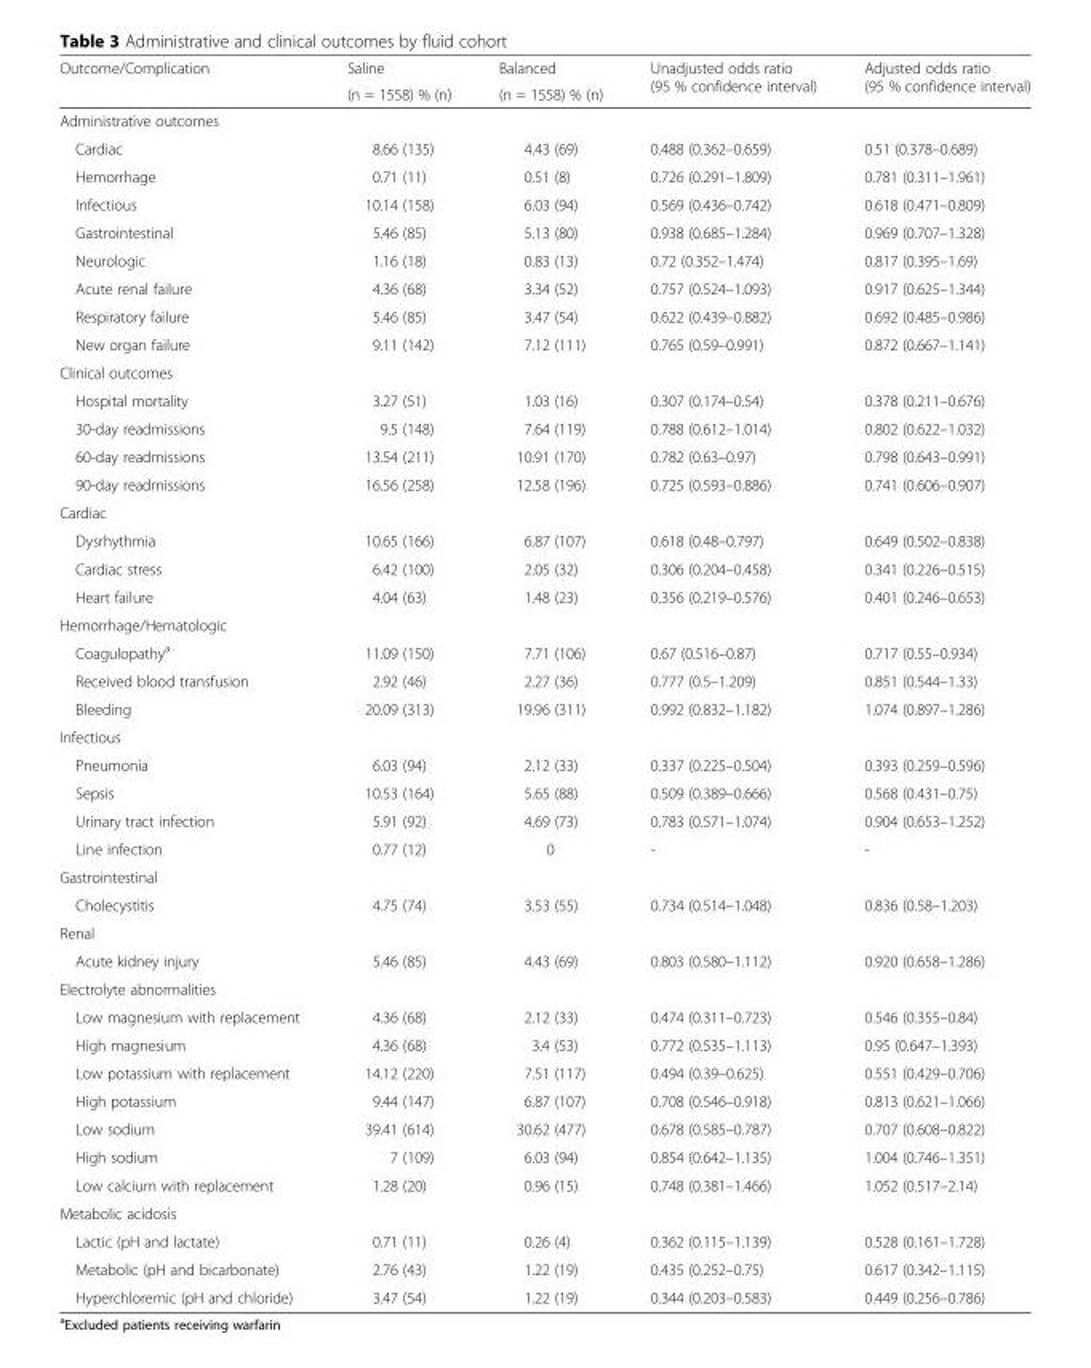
<table><thead><tr><td rowspan="2">Outcome/Complication</td><td rowspan="2">Saline (n = 1558) % (n)</td><td rowspan="2">Balanced (n = 1558) % (n)</td><td rowspan="2">Unadjusted odds ratio (95 % confidence interval)</td><td rowspan="2">Adjusted odds ratio (95 % confidence interval)</td></tr><tr></tr></thead><tbody><tr><td colspan="5">Administrative outcomes</td></tr><tr><td>Cardiac</td><td>8.66 (135)</td><td>4.43 (69)</td><td>0.488 (0.362–0.659)</td><td>0.51 (0.378–0.689)</td></tr><tr><td>Hemorrhage</td><td>0.71 (11)</td><td>0.51 (8)</td><td>0.726 (0.291–1.809)</td><td>0.781 (0.311–1.961)</td></tr><tr><td>Infectious</td><td>10.14 (158)</td><td>6.03 (94)</td><td>0.569 (0.436–0.742)</td><td>0.618 (0.471–0.809)</td></tr><tr><td>Gastrointestinal</td><td>5.46 (85)</td><td>5.13 (80)</td><td>0.938 (0.685–1.284)</td><td>0.969 (0.707–1.328)</td></tr><tr><td>Neurologic</td><td>1.16 (18)</td><td>0.83 (13)</td><td>0.72 (0.352–1.474)</td><td>0.817 (0.395–1.69)</td></tr><tr><td>Acute renal failure</td><td>4.36 (68)</td><td>3.34 (52)</td><td>0.757 (0.524–1.093)</td><td>0.917 (0.625–1.344)</td></tr><tr><td>Respiratory failure</td><td>5.46 (85)</td><td>3.47 (54)</td><td>0.622 (0.439–0.882)</td><td>0.692 (0.485–0.986)</td></tr><tr><td>New organ failure</td><td>9.11 (142)</td><td>7.12 (111)</td><td>0.765 (0.59–0.991)</td><td>0.872 (0.667–1.141)</td></tr><tr><td colspan="5">Clinical outcomes</td></tr><tr><td>Hospital mortality</td><td>3.27 (51)</td><td>1.03 (16)</td><td>0.307 (0.174–0.54)</td><td>0.378 (0.211–0.676)</td></tr><tr><td>30-day readmissions</td><td>9.5 (148)</td><td>7.64 (119)</td><td>0.788 (0.612–1.014)</td><td>0.802 (0.622–1.032)</td></tr><tr><td>60-day readmissions</td><td>13.54 (211)</td><td>10.91 (170)</td><td>0.782 (0.63–0.97)</td><td>0.798 (0.643–0.991)</td></tr><tr><td>90-day readmissions</td><td>16.56 (258)</td><td>12.58 (196)</td><td>0.725 (0.593–0.886)</td><td>0.741 (0.606–0.907)</td></tr><tr><td colspan="5">Cardiac</td></tr><tr><td>Dysrhythmia</td><td>10.65 (166)</td><td>6.87 (107)</td><td>0.618 (0.48–0.797)</td><td>0.649 (0.502–0.838)</td></tr><tr><td>Cardiac stress</td><td>6.42 (100)</td><td>2.05 (32)</td><td>0.306 (0.204–0.458)</td><td>0.341 (0.226–0.515)</td></tr><tr><td>Heart failure</td><td>4.04 (63)</td><td>1.48 (23)</td><td>0.356 (0.219–0.576)</td><td>0.401 (0.246–0.653)</td></tr><tr><td colspan="5">Hemorrhage/Hematologic</td></tr><tr><td>Coagulopathy<sup>a</sup></td><td>11.09 (150)</td><td>7.71 (106)</td><td>0.67 (0.516–0.87)</td><td>0.717 (0.55–0.934)</td></tr><tr><td>Received blood transfusion</td><td>2.92 (46)</td><td>2.27 (36)</td><td>0.777 (0.5–1.209)</td><td>0.851 (0.544–1.33)</td></tr><tr><td>Bleeding</td><td>20.09 (313)</td><td>19.96 (311)</td><td>0.992 (0.832–1.182)</td><td>1.074 (0.897–1.286)</td></tr><tr><td colspan="5">Infectious</td></tr><tr><td>Pneumonia</td><td>6.03 (94)</td><td>2.12 (33)</td><td>0.337 (0.225–0.504)</td><td>0.393 (0.259–0.596)</td></tr><tr><td>Sepsis</td><td>10.53 (164)</td><td>5.65 (88)</td><td>0.509 (0.389–0.666)</td><td>0.568 (0.431–0.75)</td></tr><tr><td>Urinary tract infection</td><td>5.91 (92)</td><td>4.69 (73)</td><td>0.783 (0.571–1.074)</td><td>0.904 (0.653–1.252)</td></tr><tr><td>Line infection</td><td>0.77 (12)</td><td>0</td><td>-</td><td>-</td></tr><tr><td colspan="5">Gastrointestinal</td></tr><tr><td>Cholecystitis</td><td>4.75 (74)</td><td>3.53 (55)</td><td>0.734 (0.514–1.048)</td><td>0.836 (0.58–1.203)</td></tr><tr><td colspan="5">Renal</td></tr><tr><td>Acute kidney injury</td><td>5.46 (85)</td><td>4.43 (69)</td><td>0.803 (0.580–1.112)</td><td>0.920 (0.658–1.286)</td></tr><tr><td colspan="5">Electrolyte abnormalities</td></tr><tr><td>Low magnesium with replacement</td><td>4.36 (68)</td><td>2.12 (33)</td><td>0.474 (0.311–0.723)</td><td>0.546 (0.355–0.84)</td></tr><tr><td>High magnesium</td><td>4.36 (68)</td><td>3.4 (53)</td><td>0.772 (0.535–1.113)</td><td>0.95 (0.647–1.393)</td></tr><tr><td>Low potassium with replacement</td><td>14.12 (220)</td><td>7.51 (117)</td><td>0.494 (0.39–0.625)</td><td>0.551 (0.429–0.706)</td></tr><tr><td>High potassium</td><td>9.44 (147)</td><td>6.87 (107)</td><td>0.708 (0.546–0.918)</td><td>0.813 (0.621–1.066)</td></tr><tr><td>Low sodium</td><td>39.41 (614)</td><td>30.62 (477)</td><td>0.678 (0.585–0.787)</td><td>0.707 (0.608–0.822)</td></tr><tr><td>High sodium</td><td>7 (109)</td><td>6.03 (94)</td><td>0.854 (0.642–1.135)</td><td>1.004 (0.746–1.351)</td></tr><tr><td>Low calcium with replacement</td><td>1.28 (20)</td><td>0.96 (15)</td><td>0.748 (0.381–1.466)</td><td>1.052 (0.517–2.14)</td></tr><tr><td colspan="5">Metabolic acidosis</td></tr><tr><td>Lactic (pH and lactate)</td><td>0.71 (11)</td><td>0.26 (4)</td><td>0.362 (0.115–1.139)</td><td>0.528 (0.161–1.728)</td></tr><tr><td>Metabolic (pH and bicarbonate)</td><td>2.76 (43)</td><td>1.22 (19)</td><td>0.435 (0.252–0.75)</td><td>0.617 (0.342–1.115)</td></tr><tr><td>Hyperchloremic (pH and chloride)</td><td>3.47 (54)</td><td>1.22 (19)</td><td>0.344 (0.203–0.583)</td><td>0.449 (0.256–0.786)</td></tr></tbody></table>